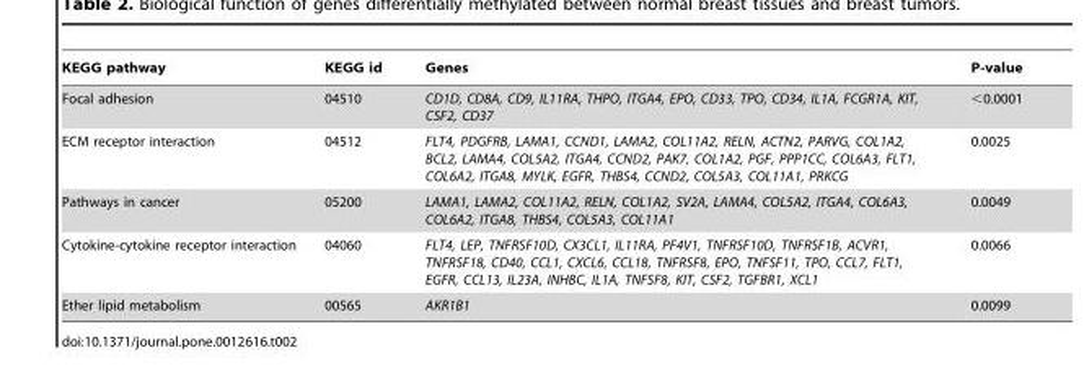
<table><thead><tr><td>KEGG pathway</td><td>KEGG id</td><td>Genes</td><td>P-value</td></tr></thead><tbody><tr><td>Focal adhesion</td><td>04510</td><td>CD1D, CD8A, CD9, IL11RA, THPO, ITGA4, EPO, CD33, TPO, CD34, IL1A, FCGR1A, KIT, CSF2, CD37</td><td>&lt;0.0001</td></tr><tr><td>ECM receptor interaction</td><td>04512</td><td>FLT4, PDGFRB, LAMA1, CCND1, LAMA2, COL11A2, RELN, ACTN2, PARVG, COL1A2, BCL2, LAMA4, COL5A2, ITGA4, CCND2, PAK7, COL1A2, PGF, PPP1CC, COL6A3, FLT1, COL6A2, ITGA8, MYLK, EGFR, THBS4, CCND2, COL5A3, COL11A1, PRKCG</td><td>0.0025</td></tr><tr><td>Pathways in cancer</td><td>05200</td><td>LAMA1, LAMA2, COL11A2, RELN, COL1A2, SV2A, LAMA4, COL5A2, ITGA4, COL6A3, COL6A2, ITGA8, THBS4, COL5A3, COL11A1</td><td>0.0049</td></tr><tr><td>Cytokine-cytokine receptor interaction</td><td>04060</td><td>FLT4, LEP, TNFRSF10D, CX3CL1, IL11RA, PF4V1, TNFRSF10D, TNFRSF1B, ACVR1, TNFRSF18, CD40, CCL1, CXCL6, CCL18, TNFRSF8, EPO, TNFSF11, TPO, CCL7, FLT1, EGFR, CCL13, IL23A, INHBC, IL1A, TNFSF8, KIT, CSF2, TGFBR1, XCL1</td><td>0.0066</td></tr><tr><td>Ether lipid metabolism</td><td>00565</td><td>AKR1B1</td><td>0.0099</td></tr></tbody></table>